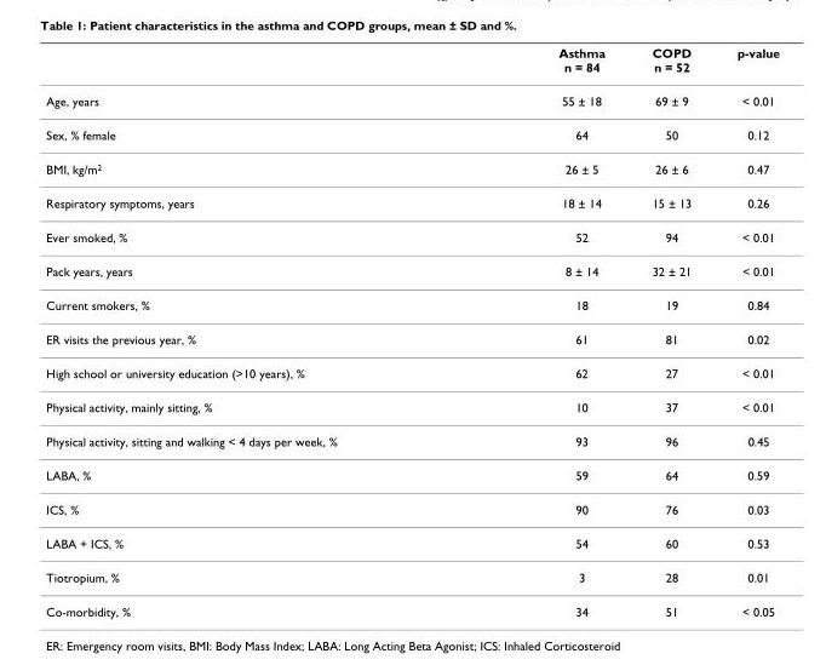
<table><thead><tr><td></td><td>Asthma n = 84</td><td>COPD n = 52</td><td>p-value</td></tr></thead><tbody><tr><td>Age, years</td><td>55 ± 18</td><td>69 ± 9</td><td>&lt; 0.01</td></tr><tr><td>Sex, % female</td><td>64</td><td>50</td><td>0.12</td></tr><tr><td>BMI, kg/m<sup>2</sup></td><td>26 ± 5</td><td>26 ± 6</td><td>0.47</td></tr><tr><td>Respiratory symptoms, years</td><td>18 ± 14</td><td>15 ± 13</td><td>0.26</td></tr><tr><td>Ever smoked, %</td><td>52</td><td>94</td><td>&lt; 0.01</td></tr><tr><td>Pack years, years</td><td>8 ± 14</td><td>32 ± 21</td><td>&lt; 0.01</td></tr><tr><td>Current smokers, %</td><td>18</td><td>19</td><td>0.84</td></tr><tr><td>ER visits the previous year, %</td><td>61</td><td>81</td><td>0.02</td></tr><tr><td>High school or university education (&gt;10 years), %</td><td>62</td><td>27</td><td>&lt; 0.01</td></tr><tr><td>Physical activity, mainly sitting, %</td><td>10</td><td>37</td><td>&lt; 0.01</td></tr><tr><td>Physical activity, sitting and walking &lt; 4 days per week, %</td><td>93</td><td>96</td><td>0.45</td></tr><tr><td>LABA, %</td><td>59</td><td>64</td><td>0.59</td></tr><tr><td>ICS, %</td><td>90</td><td>76</td><td>0.03</td></tr><tr><td>LABA + ICS, %</td><td>54</td><td>60</td><td>0.53</td></tr><tr><td>Tiotropium, %</td><td>3</td><td>28</td><td>0.01</td></tr><tr><td>Co-morbidity, %</td><td>34</td><td>51</td><td>&lt; 0.05</td></tr></tbody></table>